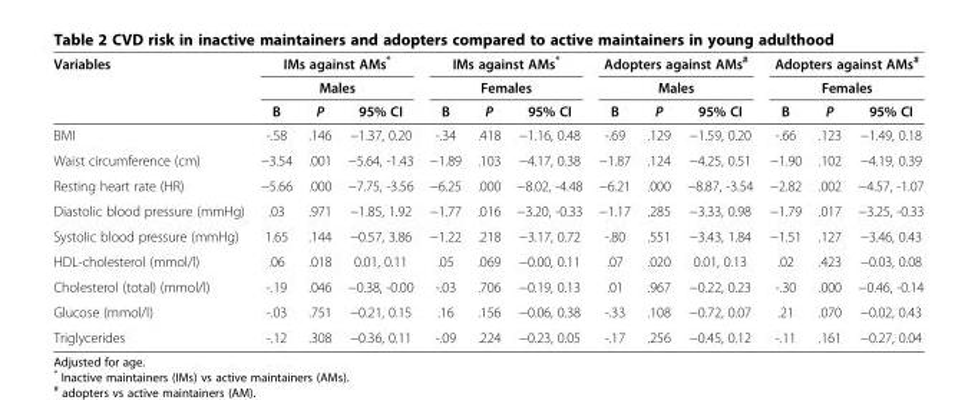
<table><thead><tr><td rowspan="3">Variables</td><td rowspan="2" colspan="3">IMs against AMs* Males</td><td rowspan="2" colspan="3">IMs against AMs* Females</td><td rowspan="2" colspan="3">Adopters against AMs<sup>#</sup> Males</td><td rowspan="2" colspan="3">Adopters against AMs<sup>#</sup> Females</td></tr><tr></tr><tr><td>B</td><td>P</td><td>95% CI</td><td>B</td><td>P</td><td>95% CI</td><td>B</td><td>P</td><td>95% CI</td><td>B</td><td>P</td><td>95% CI</td></tr></thead><tbody><tr><td>BMI</td><td>-.58</td><td>.146</td><td>−1.37, 0.20</td><td>-.34</td><td>.418</td><td>−1.16, 0.48</td><td>-.69</td><td>.129</td><td>−1.59, 0.20</td><td>-.66</td><td>.123</td><td>−1.49, 0.18</td></tr><tr><td>Waist circumference (cm)</td><td>−3.54</td><td>.001</td><td>−5.64, -1.43</td><td>−1.89</td><td>.103</td><td>−4.17, 0.38</td><td>−1.87</td><td>.124</td><td>−4.25, 0.51</td><td>−1.90</td><td>.102</td><td>−4.19, 0.39</td></tr><tr><td>Resting heart rate (HR)</td><td>−5.66</td><td>.000</td><td>−7.75, -3.56</td><td>−6.25</td><td>.000</td><td>−8.02, -4.48</td><td>−6.21</td><td>.000</td><td>−8.87, -3.54</td><td>−2.82</td><td>.002</td><td>−4.57, -1.07</td></tr><tr><td>Diastolic blood pressure (mmHg)</td><td>.03</td><td>.971</td><td>−1.85, 1.92</td><td>−1.77</td><td>.016</td><td>−3.20, -0.33</td><td>−1.17</td><td>.285</td><td>−3.33, 0.98</td><td>−1.79</td><td>.017</td><td>−3.25, -0.33</td></tr><tr><td>Systolic blood pressure (mmHg)</td><td>1.65</td><td>.144</td><td>−0.57, 3.86</td><td>−1.22</td><td>.218</td><td>−3.17, 0.72</td><td>-.80</td><td>.551</td><td>−3.43, 1.84</td><td>−1.51</td><td>.127</td><td>−3.46, 0.43</td></tr><tr><td>HDL-cholesterol (mmol/l)</td><td>.06</td><td>.018</td><td>0.01, 0.11</td><td>.05</td><td>.069</td><td>−0.00, 0.11</td><td>.07</td><td>.020</td><td>0.01, 0.13</td><td>.02</td><td>.423</td><td>−0.03, 0.08</td></tr><tr><td>Cholesterol (total) (mmol/l)</td><td>-.19</td><td>.046</td><td>−0.38, -0.00</td><td>-.03</td><td>.706</td><td>−0.19, 0.13</td><td>.01</td><td>.967</td><td>−0.22, 0.23</td><td>-.30</td><td>.000</td><td>−0.46, -0.14</td></tr><tr><td>Glucose (mmol/l)</td><td>-.03</td><td>.751</td><td>−0.21, 0.15</td><td>.16</td><td>.156</td><td>−0.06, 0.38</td><td>-.33</td><td>.108</td><td>−0.72, 0.07</td><td>.21</td><td>.070</td><td>−0.02, 0.43</td></tr><tr><td>Triglycerides</td><td>-.12</td><td>.308</td><td>−0.36, 0.11</td><td>-.09</td><td>.224</td><td>−0.23, 0.05</td><td>-.17</td><td>.256</td><td>−0.45, 0.12</td><td>-.11</td><td>.161</td><td>−0.27, 0.04</td></tr></tbody></table>